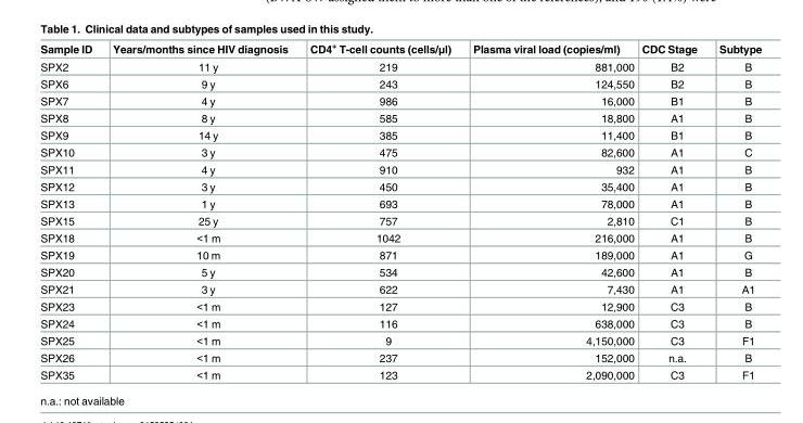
<table><thead><tr><td>Sample ID</td><td>Years/months since HIV diagnosis</td><td>CD4<sup>+</sup> T-cell counts (cells/μl)</td><td>Plasma viral load (copies/ml)</td><td>CDC Stage</td><td>Subtype</td></tr></thead><tbody><tr><td>SPX2</td><td>11 y</td><td>219</td><td>881,000</td><td>B2</td><td>B</td></tr><tr><td>SPX6</td><td>9 y</td><td>243</td><td>124,550</td><td>B2</td><td>B</td></tr><tr><td>SPX7</td><td>4 y</td><td>986</td><td>16,000</td><td>B1</td><td>B</td></tr><tr><td>SPX8</td><td>8 y</td><td>585</td><td>18,800</td><td>A1</td><td>B</td></tr><tr><td>SPX9</td><td>14 y</td><td>385</td><td>11,400</td><td>B1</td><td>B</td></tr><tr><td>SPX10</td><td>3 y</td><td>475</td><td>82,600</td><td>A1</td><td>C</td></tr><tr><td>SPX11</td><td>4 y</td><td>910</td><td>932</td><td>A1</td><td>B</td></tr><tr><td>SPX12</td><td>3 y</td><td>450</td><td>35,400</td><td>A1</td><td>B</td></tr><tr><td>SPX13</td><td>1 y</td><td>693</td><td>78,000</td><td>A1</td><td>B</td></tr><tr><td>SPX15</td><td>25 y</td><td>757</td><td>2,810</td><td>C1</td><td>B</td></tr><tr><td>SPX18</td><td>&lt;1 m</td><td>1042</td><td>216,000</td><td>A1</td><td>B</td></tr><tr><td>SPX19</td><td>10 m</td><td>871</td><td>189,000</td><td>A1</td><td>G</td></tr><tr><td>SPX20</td><td>5 y</td><td>534</td><td>42,600</td><td>A1</td><td>B</td></tr><tr><td>SPX21</td><td>3 y</td><td>622</td><td>7,430</td><td>A1</td><td>A1</td></tr><tr><td>SPX23</td><td>&lt;1 m</td><td>127</td><td>12,900</td><td>C3</td><td>B</td></tr><tr><td>SPX24</td><td>&lt;1 m</td><td>116</td><td>638,000</td><td>C3</td><td>B</td></tr><tr><td>SPX25</td><td>&lt;1 m</td><td>9</td><td>4,150,000</td><td>C3</td><td>F1</td></tr><tr><td>SPX26</td><td>&lt;1 m</td><td>237</td><td>152,000</td><td>n.a.</td><td>B</td></tr><tr><td>SPX35</td><td>&lt;1 m</td><td>123</td><td>2,090,000</td><td>C3</td><td>F1</td></tr></tbody></table>